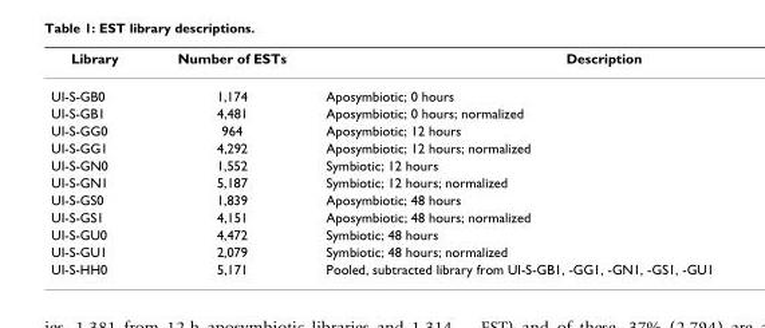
<table><thead><tr><td>Library</td><td>Number of ESTs</td><td>Description</td></tr></thead><tbody><tr><td>UI-S-GB0</td><td>1,174</td><td>Aposymbiotic; 0 hours</td></tr><tr><td>UI-S-GB1</td><td>4,481</td><td>Aposymbiotic; 0 hours; normalized</td></tr><tr><td>UI-S-GG0</td><td>964</td><td>Aposymbiotic; 12 hours</td></tr><tr><td>UI-S-GG1</td><td>4,292</td><td>Aposymbiotic; 12 hours; normalized</td></tr><tr><td>UI-S-GN0</td><td>1,552</td><td>Symbiotic; 12 hours</td></tr><tr><td>UI-S-GN1</td><td>5,187</td><td>Symbiotic; 12 hours; normalized</td></tr><tr><td>UI-S-GS0</td><td>1,839</td><td>Aposymbiotic; 48 hours</td></tr><tr><td>UI-S-GS1</td><td>4,151</td><td>Aposymbiotic; 48 hours; normalized</td></tr><tr><td>UI-S-GU0</td><td>4,472</td><td>Symbiotic; 48 hours</td></tr><tr><td>UI-S-GU1</td><td>2,079</td><td>Symbiotic; 48 hours; normalized</td></tr><tr><td>UI-S-HH0</td><td>5,171</td><td>Pooled, subtracted library from UI-S-GB1, -GG1, -GN1, -GS1, -GU1</td></tr></tbody></table>